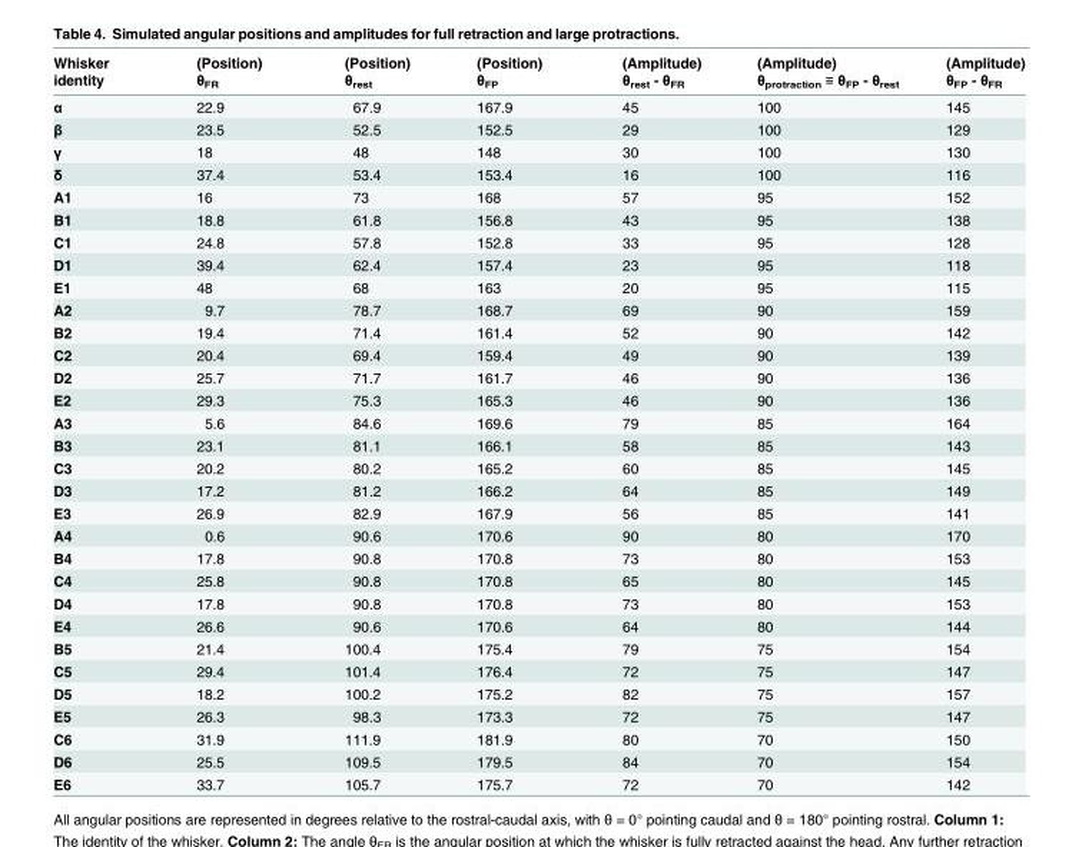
<table><thead><tr><td>Whisker identity</td><td>(Position) θ<sub>FR</sub></td><td>(Position) θ<sub>rest</sub></td><td>(Position) θ<sub>FP</sub></td><td>(Amplitude) θ<sub>rest</sub> - θ<sub>FR</sub></td><td>(Amplitude) θ<sub>protraction</sub> ≡ θ<sub>FP</sub> - θ<sub>rest</sub></td><td>(Amplitude) θ<sub>FP</sub> - θ<sub>FR</sub></td></tr></thead><tbody><tr><td>α</td><td>22.9</td><td>67.9</td><td>167.9</td><td>45</td><td>100</td><td>145</td></tr><tr><td>β</td><td>23.5</td><td>52.5</td><td>152.5</td><td>29</td><td>100</td><td>129</td></tr><tr><td>γ</td><td>18</td><td>48</td><td>148</td><td>30</td><td>100</td><td>130</td></tr><tr><td>δ</td><td>37.4</td><td>53.4</td><td>153.4</td><td>16</td><td>100</td><td>116</td></tr><tr><td>A1</td><td>16</td><td>73</td><td>168</td><td>57</td><td>95</td><td>152</td></tr><tr><td>B1</td><td>18.8</td><td>61.8</td><td>156.8</td><td>43</td><td>95</td><td>138</td></tr><tr><td>C1</td><td>24.8</td><td>57.8</td><td>152.8</td><td>33</td><td>95</td><td>128</td></tr><tr><td>D1</td><td>39.4</td><td>62.4</td><td>157.4</td><td>23</td><td>95</td><td>118</td></tr><tr><td>E1</td><td>48</td><td>68</td><td>163</td><td>20</td><td>95</td><td>115</td></tr><tr><td>A2</td><td>9.7</td><td>78.7</td><td>168.7</td><td>69</td><td>90</td><td>159</td></tr><tr><td>B2</td><td>19.4</td><td>71.4</td><td>161.4</td><td>52</td><td>90</td><td>142</td></tr><tr><td>C2</td><td>20.4</td><td>69.4</td><td>159.4</td><td>49</td><td>90</td><td>139</td></tr><tr><td>D2</td><td>25.7</td><td>71.7</td><td>161.7</td><td>46</td><td>90</td><td>136</td></tr><tr><td>E2</td><td>29.3</td><td>75.3</td><td>165.3</td><td>46</td><td>90</td><td>136</td></tr><tr><td>A3</td><td>5.6</td><td>84.6</td><td>169.6</td><td>79</td><td>85</td><td>164</td></tr><tr><td>B3</td><td>23.1</td><td>81.1</td><td>166.1</td><td>58</td><td>85</td><td>143</td></tr><tr><td>C3</td><td>20.2</td><td>80.2</td><td>165.2</td><td>60</td><td>85</td><td>145</td></tr><tr><td>D3</td><td>17.2</td><td>81.2</td><td>166.2</td><td>64</td><td>85</td><td>149</td></tr><tr><td>E3</td><td>26.9</td><td>82.9</td><td>167.9</td><td>56</td><td>85</td><td>141</td></tr><tr><td>A4</td><td>0.6</td><td>90.6</td><td>170.6</td><td>90</td><td>80</td><td>170</td></tr><tr><td>B4</td><td>17.8</td><td>90.8</td><td>170.8</td><td>73</td><td>80</td><td>153</td></tr><tr><td>C4</td><td>25.8</td><td>90.8</td><td>170.8</td><td>65</td><td>80</td><td>145</td></tr><tr><td>D4</td><td>17.8</td><td>90.8</td><td>170.8</td><td>73</td><td>80</td><td>153</td></tr><tr><td>E4</td><td>26.6</td><td>90.6</td><td>170.6</td><td>64</td><td>80</td><td>144</td></tr><tr><td>B5</td><td>21.4</td><td>100.4</td><td>175.4</td><td>79</td><td>75</td><td>154</td></tr><tr><td>C5</td><td>29.4</td><td>101.4</td><td>176.4</td><td>72</td><td>75</td><td>147</td></tr><tr><td>D5</td><td>18.2</td><td>100.2</td><td>175.2</td><td>82</td><td>75</td><td>157</td></tr><tr><td>E5</td><td>26.3</td><td>98.3</td><td>173.3</td><td>72</td><td>75</td><td>147</td></tr><tr><td>C6</td><td>31.9</td><td>111.9</td><td>181.9</td><td>80</td><td>70</td><td>150</td></tr><tr><td>D6</td><td>25.5</td><td>109.5</td><td>179.5</td><td>84</td><td>70</td><td>154</td></tr><tr><td>E6</td><td>33.7</td><td>105.7</td><td>175.7</td><td>72</td><td>70</td><td>142</td></tr></tbody></table>